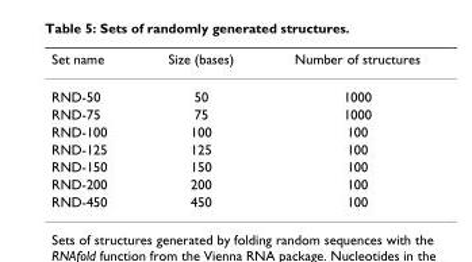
<table><thead><tr><td>Set name</td><td>Size (bases)</td><td>Number of structures</td></tr></thead><tbody><tr><td>RND-50</td><td>50</td><td>1000</td></tr><tr><td>RND-75</td><td>75</td><td>1000</td></tr><tr><td>RND-100</td><td>100</td><td>100</td></tr><tr><td>RND-125</td><td>125</td><td>100</td></tr><tr><td>RND-150</td><td>150</td><td>100</td></tr><tr><td>RND-200</td><td>200</td><td>100</td></tr><tr><td>RND-450</td><td>450</td><td>100</td></tr></tbody></table>